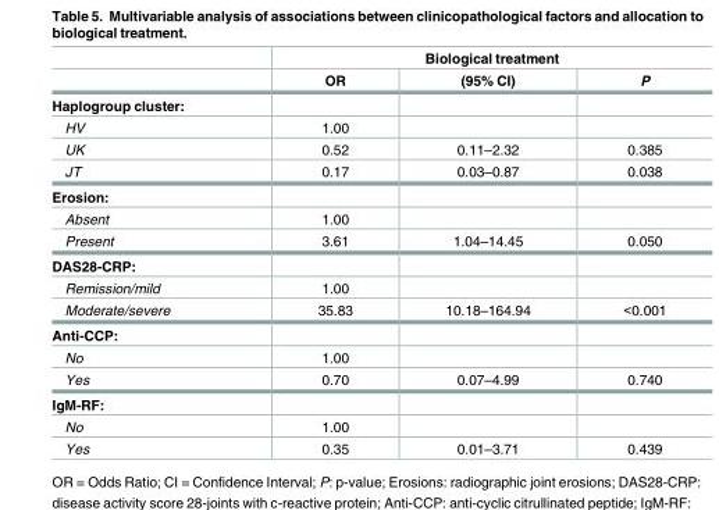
<table><thead><tr><td rowspan="2"></td><td colspan="3">Biological treatment</td></tr><tr><td>OR</td><td>(95% CI)</td><td>P</td></tr></thead><tbody><tr><td colspan="4">Haplogroup cluster:</td></tr><tr><td>HV</td><td>1.00</td><td></td><td></td></tr><tr><td>UK</td><td>0.52</td><td>0.11–2.32</td><td>0.385</td></tr><tr><td>JT</td><td>0.17</td><td>0.03–0.87</td><td>0.038</td></tr><tr><td colspan="4">Erosion:</td></tr><tr><td>Absent</td><td>1.00</td><td></td><td></td></tr><tr><td>Present</td><td>3.61</td><td>1.04–14.45</td><td>0.050</td></tr><tr><td colspan="4">DAS28-CRP:</td></tr><tr><td>Remission/mild</td><td>1.00</td><td></td><td></td></tr><tr><td>Moderate/severe</td><td>35.83</td><td>10.18–164.94</td><td>&lt;0.001</td></tr><tr><td colspan="4">Anti-CCP:</td></tr><tr><td>No</td><td>1.00</td><td></td><td></td></tr><tr><td>Yes</td><td>0.70</td><td>0.07–4.99</td><td>0.740</td></tr><tr><td colspan="4">IgM-RF:</td></tr><tr><td>No</td><td>1.00</td><td></td><td></td></tr><tr><td>Yes</td><td>0.35</td><td>0.01–3.71</td><td>0.439</td></tr></tbody></table>